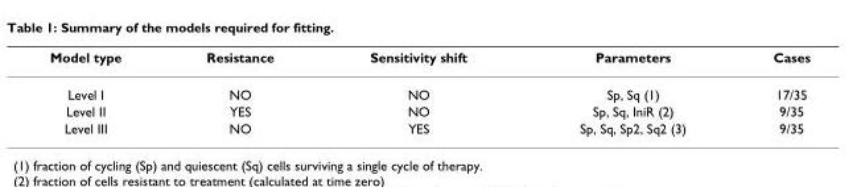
<table><thead><tr><td>Model type</td><td>Resistance</td><td>Sensitivity shift</td><td>Parameters</td><td>Cases</td></tr></thead><tbody><tr><td>Level I</td><td>NO</td><td>NO</td><td>Sp, Sq (1)</td><td>17/35</td></tr><tr><td>Level II</td><td>YES</td><td>NO</td><td>Sp, Sq, IniR (2)</td><td>9/35</td></tr><tr><td>Level III</td><td>NO</td><td>YES</td><td>Sp, Sq, Sp2, Sq2 (3)</td><td>9/35</td></tr></tbody></table>